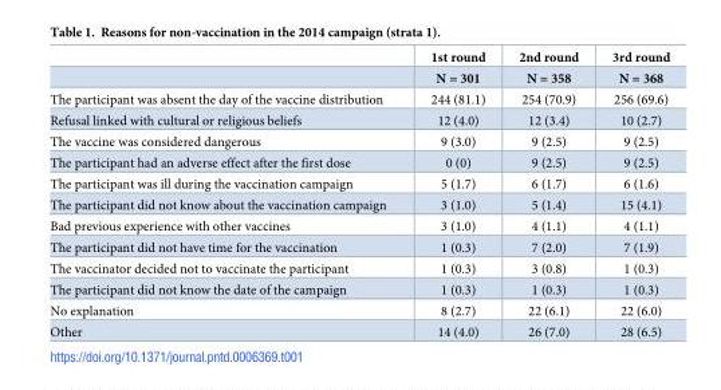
<table><thead><tr><td rowspan="2"></td><td rowspan="2">1st round N = 301</td><td rowspan="2">2nd round N = 358</td><td rowspan="2">3rd round N = 368</td></tr><tr></tr></thead><tbody><tr><td>The participant was absent the day of the vaccine distribution</td><td>244 (81.1)</td><td>254 (70.9)</td><td>256 (69.6)</td></tr><tr><td>Refusal linked with cultural or religious beliefs</td><td>12 (4.0)</td><td>12 (3.4)</td><td>10 (2.7)</td></tr><tr><td>The vaccine was considered dangerous</td><td>9 (3.0)</td><td>9 (2.5)</td><td>9 (2.5)</td></tr><tr><td>The participant had an adverse effect after the first dose</td><td>0 (0)</td><td>9 (2.5)</td><td>9 (2.5)</td></tr><tr><td>The participant was ill during the vaccination campaign</td><td>5 (1.7)</td><td>6 (1.7)</td><td>6 (1.6)</td></tr><tr><td>The participant did not know about the vaccination campaign</td><td>3 (1.0)</td><td>5 (1.4)</td><td>15 (4.1)</td></tr><tr><td>Bad previous experience with other vaccines</td><td>3 (1.0)</td><td>4 (1.1)</td><td>4 (1.1)</td></tr><tr><td>The participant did not have time for the vaccination</td><td>1 (0.3)</td><td>7 (2.0)</td><td>7 (1.9)</td></tr><tr><td>The vaccinator decided not to vaccinate the participant</td><td>1 (0.3)</td><td>3 (0.8)</td><td>1 (0.3)</td></tr><tr><td>The participant did not know the date of the campaign</td><td>1 (0.3)</td><td>1 (0.3)</td><td>1 (0.3)</td></tr><tr><td>No explanation</td><td>8 (2.7)</td><td>22 (6.1)</td><td>22 (6.0)</td></tr><tr><td>Other</td><td>14 (4.0)</td><td>26 (7.0)</td><td>28 (6.5)</td></tr></tbody></table>